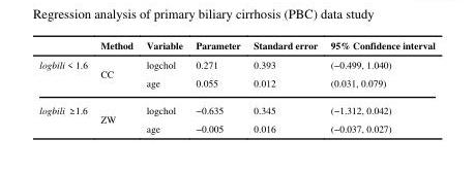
<table><thead><tr><td></td><td>Method</td><td>Variable</td><td>Parameter</td><td>Standard error</td><td>95% Confidence interval</td></tr></thead><tbody><tr><td rowspan="2">logbili &lt; 1.6</td><td rowspan="2">CC</td><td>logchol</td><td>0.271</td><td>0.393</td><td>(−0.499, 1.040)</td></tr><tr><td>age</td><td>0.055</td><td>0.012</td><td>(0.031, 0.079)</td></tr><tr><td rowspan="2">logbili ≥ 1.6</td><td rowspan="2">ZW</td><td>logchol</td><td>−0.635</td><td>0.345</td><td>(−1.312, 0.042)</td></tr><tr><td>age</td><td>−0.005</td><td>0.016</td><td>(−0.037, 0.027)</td></tr></tbody></table>